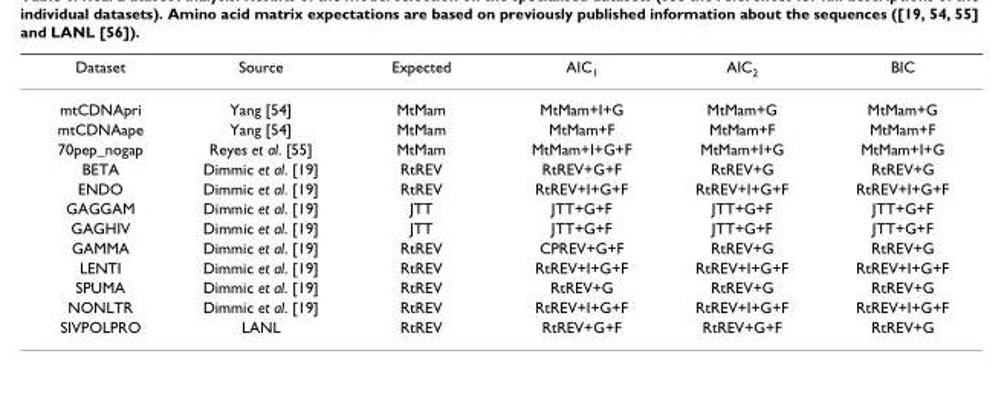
<table><thead><tr><td>Dataset</td><td>Source</td><td>Expected</td><td>AIC<sub>1</sub></td><td>AIC<sub>2</sub></td><td>BIC</td></tr></thead><tbody><tr><td>mtCDNApri</td><td>Yang [54]</td><td>MtMam</td><td>MtMam+I+G</td><td>MtMam+G</td><td>MtMam+G</td></tr><tr><td>mtCDNAape</td><td>Yang [54]</td><td>MtMam</td><td>MtMam+F</td><td>MtMam+F</td><td>MtMam+F</td></tr><tr><td>70pep_nogap</td><td>Reyes et al. [55]</td><td>MtMam</td><td>MtMam+I+G+F</td><td>MtMam+I+G</td><td>MtMam+I+G</td></tr><tr><td>BETA</td><td>Dimmic et al. [19]</td><td>RtREV</td><td>RtREV+G+F</td><td>RtREV+G</td><td>RtREV+G</td></tr><tr><td>ENDO</td><td>Dimmic et al. [19]</td><td>RtREV</td><td>RtREV+I+G+F</td><td>RtREV+I+G+F</td><td>RtREV+I+G+F</td></tr><tr><td>GAGGAM</td><td>Dimmic et al. [19]</td><td>JTT</td><td>JTT+G+F</td><td>JTT+G+F</td><td>JTT+G+F</td></tr><tr><td>GAGHIV</td><td>Dimmic et al. [19]</td><td>JTT</td><td>JTT+G+F</td><td>JTT+G+F</td><td>JTT+G+F</td></tr><tr><td>GAMMA</td><td>Dimmic et al. [19]</td><td>RtREV</td><td>CPREV+G+F</td><td>RtREV+G</td><td>RtREV+G</td></tr><tr><td>LENTI</td><td>Dimmic et al. [19]</td><td>RtREV</td><td>RtREV+I+G+F</td><td>RtREV+I+G+F</td><td>RtREV+I+G+F</td></tr><tr><td>SPUMA</td><td>Dimmic et al. [19]</td><td>RtREV</td><td>RtREV+G</td><td>RtREV+G</td><td>RtREV+G</td></tr><tr><td>NONLTR</td><td>Dimmic et al. [19]</td><td>RtREV</td><td>RtREV+I+G+F</td><td>RtREV+I+G+F</td><td>RtREV+I+G+F</td></tr><tr><td>SIVPOLPRO</td><td>LANL</td><td>RtREV</td><td>RtREV+G+F</td><td>RtREV+G+F</td><td>RtREV+G</td></tr></tbody></table>